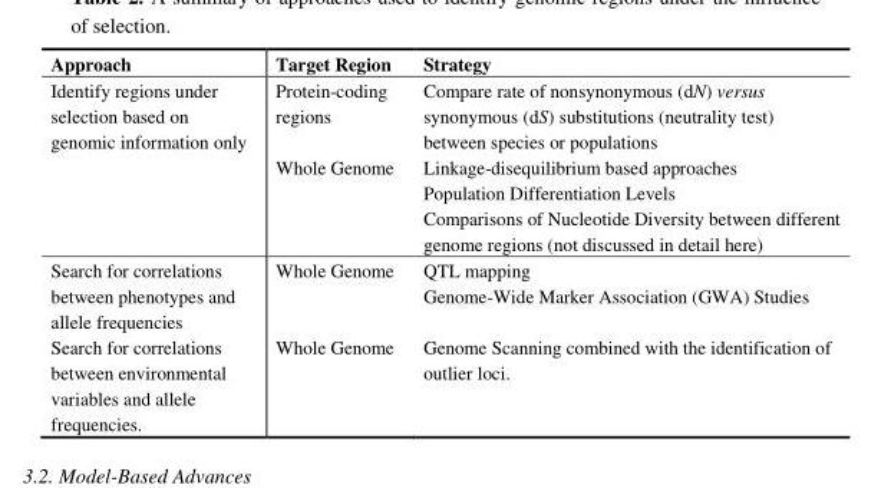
<table><thead><tr><td>Approach</td><td>Target Region</td><td>Strategy</td></tr></thead><tbody><tr><td rowspan="2">Identify regions under selection based on genomic information only</td><td>Protein-coding regions</td><td>Compare rate of nonsynonymous (dN) versus synonymous (dS) substitutions (neutrality test) between species or populations</td></tr><tr><td>Whole Genome</td><td>Linkage-disequilibrium based approaches Population Differentiation Levels Comparisons of Nucleotide Diversity between different genome regions (not discussed in detail here)</td></tr><tr><td>Search for correlations between phenotypes and allele frequencies</td><td>Whole Genome</td><td>QTL mapping Genome-Wide Marker Association (GWA) Studies</td></tr><tr><td>Search for correlations between environmental variables and allele frequencies.</td><td>Whole Genome</td><td>Genome Scanning combined with the identification of outlier loci.</td></tr></tbody></table>